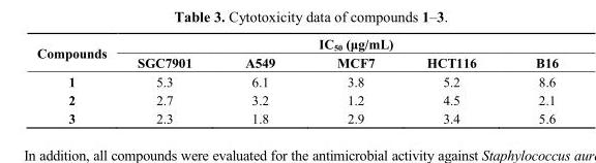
<table><thead><tr><td rowspan="2">Compounds</td><td colspan="5">IC<sub>50</sub> (μg/mL)</td></tr><tr><td>SGC7901</td><td>A549</td><td>MCF7</td><td>HCT116</td><td>B16</td></tr></thead><tbody><tr><td>1</td><td>5.3</td><td>6.1</td><td>3.8</td><td>5.2</td><td>8.6</td></tr><tr><td>2</td><td>2.7</td><td>3.2</td><td>1.2</td><td>4.5</td><td>2.1</td></tr><tr><td>3</td><td>2.3</td><td>1.8</td><td>2.9</td><td>3.4</td><td>5.6</td></tr></tbody></table>